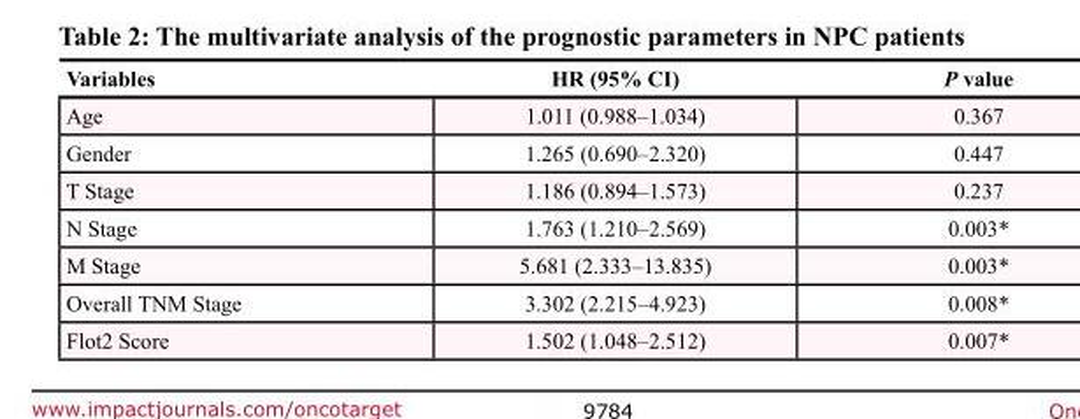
<table><thead><tr><td>Variables</td><td>HR (95% CI)</td><td>P value</td></tr></thead><tbody><tr><td>Age</td><td>1.011 (0.988–1.034)</td><td>0.367</td></tr><tr><td>Gender</td><td>1.265 (0.690–2.320)</td><td>0.447</td></tr><tr><td>T Stage</td><td>1.186 (0.894–1.573)</td><td>0.237</td></tr><tr><td>N Stage</td><td>1.763 (1.210–2.569)</td><td>0.003*</td></tr><tr><td>M Stage</td><td>5.681 (2.333–13.835)</td><td>0.003*</td></tr><tr><td>Overall TNM Stage</td><td>3.302 (2.215–4.923)</td><td>0.008*</td></tr><tr><td>Flot2 Score</td><td>1.502 (1.048–2.512)</td><td>0.007*</td></tr></tbody></table>